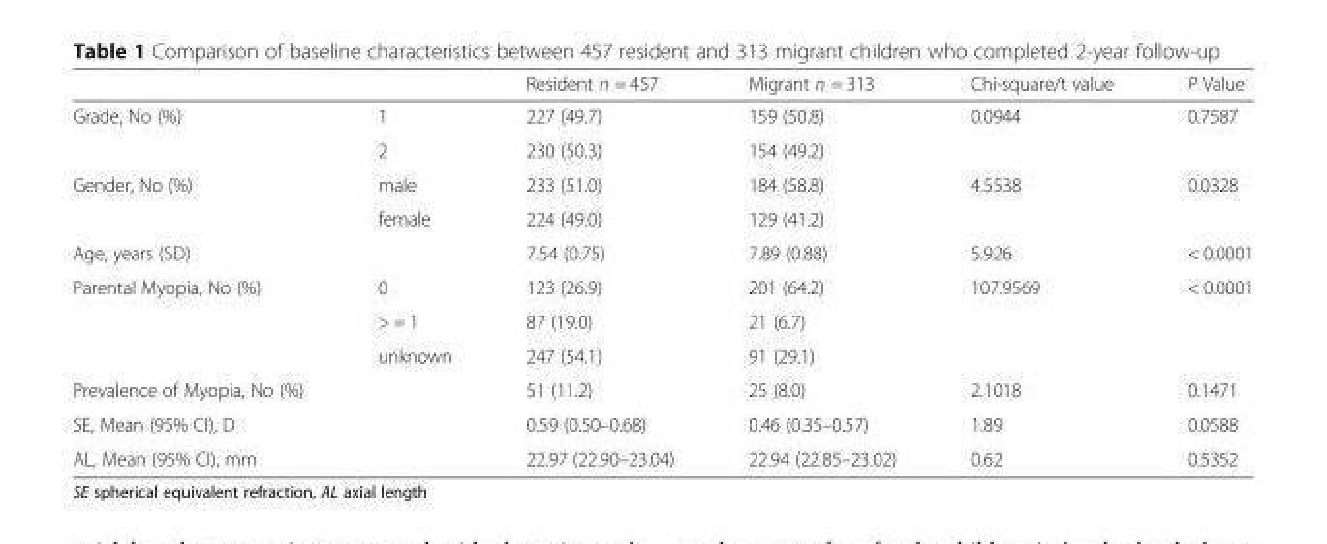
<table><thead><tr><td></td><td></td><td>Resident n = 457</td><td>Migrant n = 313</td><td>Chi-square/t value</td><td>P Value</td></tr></thead><tbody><tr><td rowspan="2">Grade, No (%)</td><td>1</td><td>227 (49.7)</td><td>159 (50.8)</td><td>0.0944</td><td>0.7587</td></tr><tr><td>2</td><td>230 (50.3)</td><td>154 (49.2)</td><td></td><td></td></tr><tr><td rowspan="2">Gender, No (%)</td><td>male</td><td>233 (51.0)</td><td>184 (58.8)</td><td>4.5538</td><td>0.0328</td></tr><tr><td>female</td><td>224 (49.0)</td><td>129 (41.2)</td><td></td><td></td></tr><tr><td>Age, years (SD)</td><td></td><td>7.54 (0.75)</td><td>7.89 (0.88)</td><td>5.926</td><td>&lt; 0.0001</td></tr><tr><td rowspan="3">Parental Myopia, No (%)</td><td>0</td><td>123 (26.9)</td><td>201 (64.2)</td><td>107.9569</td><td>&lt; 0.0001</td></tr><tr><td>&gt; = 1</td><td>87 (19.0)</td><td>21 (6.7)</td><td></td><td></td></tr><tr><td>unknown</td><td>247 (54.1)</td><td>91 (29.1)</td><td></td><td></td></tr><tr><td>Prevalence of Myopia, No (%)</td><td></td><td>51 (11.2)</td><td>25 (8.0)</td><td>2.1018</td><td>0.1471</td></tr><tr><td>SE, Mean (95% CI), D</td><td></td><td>0.59 (0.50–0.68)</td><td>0.46 (0.35–0.57)</td><td>1.89</td><td>0.0588</td></tr><tr><td>AL, Mean (95% CI), mm</td><td></td><td>22.97 (22.90–23.04)</td><td>22.94 (22.85–23.02)</td><td>0.62</td><td>0.5352</td></tr></tbody></table>